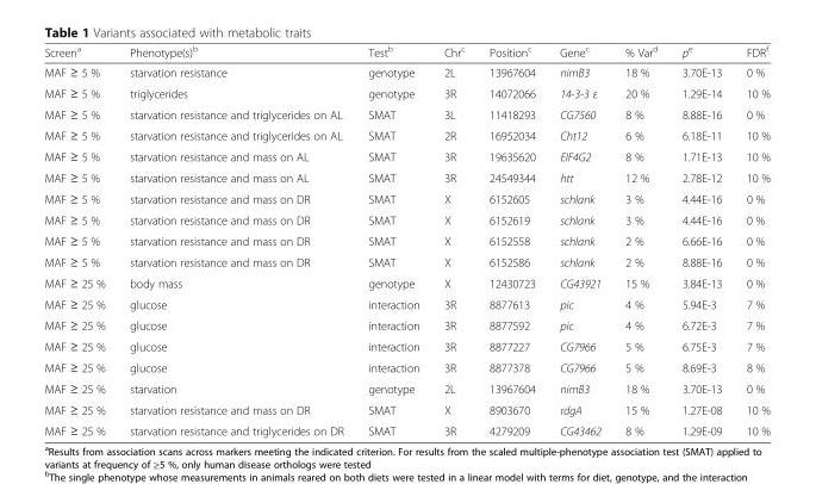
<table><thead><tr><td>Screen<sup>a</sup></td><td>Phenotype(s)<sup>b</sup></td><td>Test<sup>b</sup></td><td>Chr<sup>c</sup></td><td>Position<sup>c</sup></td><td>Gene<sup>c</sup></td><td>% Var<sup>d</sup></td><td>p<sup>e</sup></td><td>FDR<sup>f</sup></td></tr></thead><tbody><tr><td>MAF ≥ 5 %</td><td>starvation resistance</td><td>genotype</td><td>2L</td><td>13967604</td><td>nimB3</td><td>18 %</td><td>3.70E-13</td><td>0 %</td></tr><tr><td>MAF ≥ 5 %</td><td>triglycerides</td><td>genotype</td><td>3R</td><td>14072066</td><td>14-3-3 ε</td><td>20 %</td><td>1.29E-14</td><td>10 %</td></tr><tr><td>MAF ≥ 5 %</td><td>starvation resistance and triglycerides on AL</td><td>SMAT</td><td>3L</td><td>11418293</td><td>CG7560</td><td>8 %</td><td>8.88E-16</td><td>0 %</td></tr><tr><td>MAF ≥ 5 %</td><td>starvation resistance and triglycerides on AL</td><td>SMAT</td><td>2R</td><td>16952034</td><td>Cht12</td><td>6 %</td><td>6.18E-11</td><td>10 %</td></tr><tr><td>MAF ≥ 5 %</td><td>starvation resistance and mass on AL</td><td>SMAT</td><td>3R</td><td>19635620</td><td>EIF4G2</td><td>8 %</td><td>1.71E-13</td><td>10 %</td></tr><tr><td>MAF ≥ 5 %</td><td>starvation resistance and mass on AL</td><td>SMAT</td><td>3R</td><td>24549344</td><td>htt</td><td>12 %</td><td>2.78E-12</td><td>10 %</td></tr><tr><td>MAF ≥ 5 %</td><td>starvation resistance and mass on DR</td><td>SMAT</td><td>X</td><td>6152605</td><td>schlank</td><td>3 %</td><td>4.44E-16</td><td>0 %</td></tr><tr><td>MAF ≥ 5 %</td><td>starvation resistance and mass on DR</td><td>SMAT</td><td>X</td><td>6152619</td><td>schlank</td><td>3 %</td><td>4.44E-16</td><td>0 %</td></tr><tr><td>MAF ≥ 5 %</td><td>starvation resistance and mass on DR</td><td>SMAT</td><td>X</td><td>6152558</td><td>schlank</td><td>2 %</td><td>6.66E-16</td><td>0 %</td></tr><tr><td>MAF ≥ 5 %</td><td>starvation resistance and mass on DR</td><td>SMAT</td><td>X</td><td>6152586</td><td>schlank</td><td>2 %</td><td>8.88E-16</td><td>0 %</td></tr><tr><td>MAF ≥ 25 %</td><td>body mass</td><td>genotype</td><td>X</td><td>12430723</td><td>CG43921</td><td>15 %</td><td>3.84E-13</td><td>0 %</td></tr><tr><td>MAF ≥ 25 %</td><td>glucose</td><td>interaction</td><td>3R</td><td>8877613</td><td>pic</td><td>4 %</td><td>5.94E-3</td><td>7 %</td></tr><tr><td>MAF ≥ 25 %</td><td>glucose</td><td>interaction</td><td>3R</td><td>8877592</td><td>pic</td><td>4 %</td><td>6.72E-3</td><td>7 %</td></tr><tr><td>MAF ≥ 25 %</td><td>glucose</td><td>interaction</td><td>3R</td><td>8877227</td><td>CG7966</td><td>5 %</td><td>6.75E-3</td><td>7 %</td></tr><tr><td>MAF ≥ 25 %</td><td>glucose</td><td>interaction</td><td>3R</td><td>8877378</td><td>CG7966</td><td>5 %</td><td>8.69E-3</td><td>8 %</td></tr><tr><td>MAF ≥ 25 %</td><td>starvation</td><td>genotype</td><td>2L</td><td>13967604</td><td>nimB3</td><td>18 %</td><td>3.70E-13</td><td>0 %</td></tr><tr><td>MAF ≥ 25 %</td><td>starvation resistance and mass on DR</td><td>SMAT</td><td>X</td><td>8903670</td><td>rdgA</td><td>15 %</td><td>1.27E-08</td><td>10 %</td></tr><tr><td>MAF ≥ 25 %</td><td>starvation resistance and triglycerides on DR</td><td>SMAT</td><td>3R</td><td>4279209</td><td>CG43462</td><td>8 %</td><td>1.29E-09</td><td>10 %</td></tr></tbody></table>